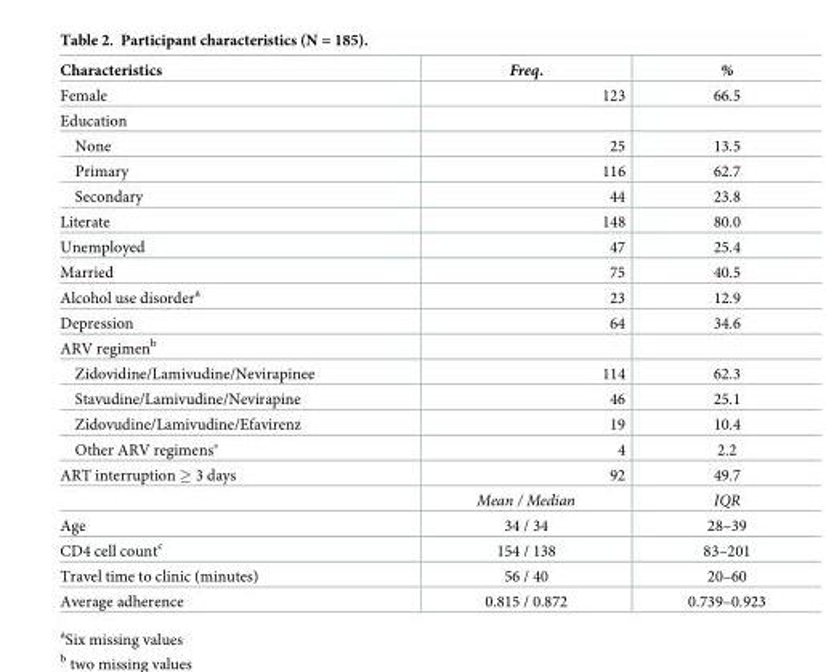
<table><thead><tr><td>Characteristics</td><td>Freq.</td><td>%</td></tr></thead><tbody><tr><td>Female</td><td>123</td><td>66.5</td></tr><tr><td colspan="3">Education</td></tr><tr><td>None</td><td>25</td><td>13.5</td></tr><tr><td>Primary</td><td>116</td><td>62.7</td></tr><tr><td>Secondary</td><td>44</td><td>23.8</td></tr><tr><td>Literate</td><td>148</td><td>80.0</td></tr><tr><td>Unemployed</td><td>47</td><td>25.4</td></tr><tr><td>Married</td><td>75</td><td>40.5</td></tr><tr><td>Alcohol use disorder<sup>a</sup></td><td>23</td><td>12.9</td></tr><tr><td>Depression</td><td>64</td><td>34.6</td></tr><tr><td colspan="3">ARV regimen<sup>b</sup></td></tr><tr><td>Zidovidine/Lamivudine/Nevirapinee</td><td>114</td><td>62.3</td></tr><tr><td>Stavudine/Lamivudine/Nevirapine</td><td>46</td><td>25.1</td></tr><tr><td>Zidovudine/Lamivudine/Efavirenz</td><td>19</td><td>10.4</td></tr><tr><td>Other ARV regimens*</td><td>4</td><td>2.2</td></tr><tr><td rowspan="2">ART interruption ≥ 3 days</td><td>92</td><td>49.7</td></tr><tr><td>Mean / Median</td><td>IQR</td></tr><tr><td>Age</td><td>34 / 34</td><td>28–39</td></tr><tr><td>CD4 cell count<sup>c</sup></td><td>154 / 138</td><td>83–201</td></tr><tr><td>Travel time to clinic (minutes)</td><td>56 / 40</td><td>20–60</td></tr><tr><td>Average adherence</td><td>0.815 / 0.872</td><td>0.739–0.923</td></tr></tbody></table>